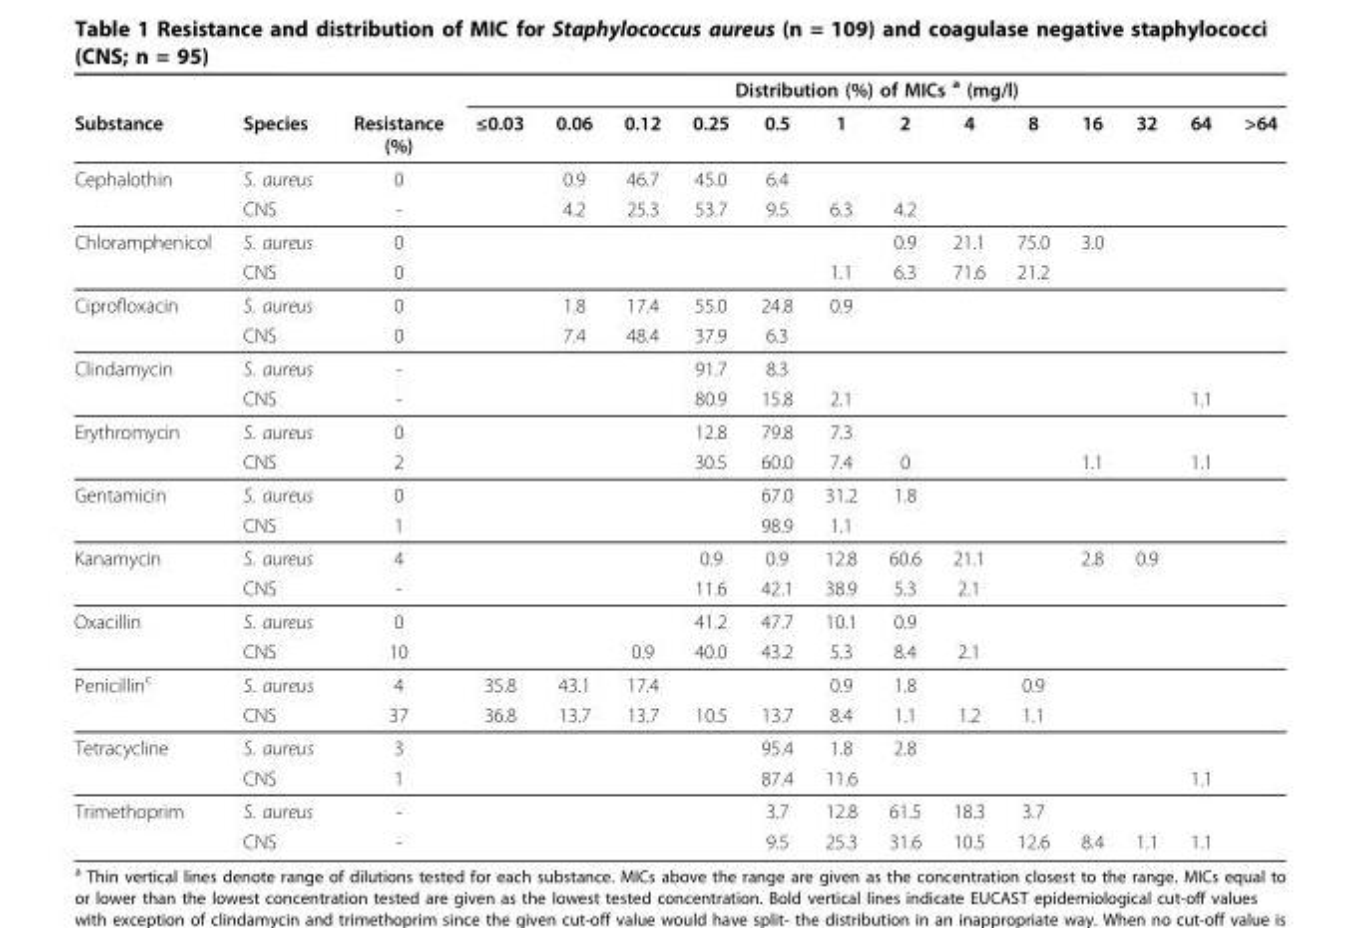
<table><thead><tr><td rowspan="2">Substance</td><td rowspan="2">Species</td><td rowspan="2">Resistance (%)</td><td colspan="13">Distribution (%) of MICs <sup>a</sup> (mg/l)</td></tr><tr><td>≤0.03</td><td>0.06</td><td>0.12</td><td>0.25</td><td>0.5</td><td>1</td><td>2</td><td>4</td><td>8</td><td>16</td><td>32</td><td>64</td><td>&gt;64</td></tr></thead><tbody><tr><td rowspan="2">Cephalothin</td><td>S. aureus</td><td>0</td><td></td><td>0.9</td><td>46.7</td><td>45.0</td><td>6.4</td><td></td><td></td><td></td><td></td><td></td><td></td><td></td><td></td></tr><tr><td>CNS</td><td>-</td><td></td><td>4.2</td><td>25.3</td><td>53.7</td><td>9.5</td><td>6.3</td><td>4.2</td><td></td><td></td><td></td><td></td><td></td><td></td></tr><tr><td rowspan="2">Chloramphenicol</td><td>S. aureus</td><td>0</td><td></td><td></td><td></td><td></td><td></td><td></td><td>0.9</td><td>21.1</td><td>75.0</td><td>3.0</td><td></td><td></td><td></td></tr><tr><td>CNS</td><td>0</td><td></td><td></td><td></td><td></td><td></td><td>1.1</td><td>6.3</td><td>71.6</td><td>21.2</td><td></td><td></td><td></td><td></td></tr><tr><td rowspan="2">Ciprofloxacin</td><td>S. aureus</td><td>0</td><td></td><td>1.8</td><td>17.4</td><td>55.0</td><td>24.8</td><td>0.9</td><td></td><td></td><td></td><td></td><td></td><td></td><td></td></tr><tr><td>CNS</td><td>0</td><td></td><td>7.4</td><td>48.4</td><td>37.9</td><td>6.3</td><td></td><td></td><td></td><td></td><td></td><td></td><td></td><td></td></tr><tr><td rowspan="2">Clindamycin</td><td>S. aureus</td><td>-</td><td></td><td></td><td></td><td>91.7</td><td>8.3</td><td></td><td></td><td></td><td></td><td></td><td></td><td></td><td></td></tr><tr><td>CNS</td><td>-</td><td></td><td></td><td></td><td>80.9</td><td>15.8</td><td>2.1</td><td></td><td></td><td></td><td></td><td></td><td>1.1</td><td></td></tr><tr><td rowspan="2">Erythromycin</td><td>S. aureus</td><td>0</td><td></td><td></td><td></td><td>12.8</td><td>79.8</td><td>7.3</td><td></td><td></td><td></td><td></td><td></td><td></td><td></td></tr><tr><td>CNS</td><td>2</td><td></td><td></td><td></td><td>30.5</td><td>60.0</td><td>7.4</td><td>0</td><td></td><td></td><td>1.1</td><td></td><td>1.1</td><td></td></tr><tr><td rowspan="2">Gentamicin</td><td>S. aureus</td><td>0</td><td></td><td></td><td></td><td></td><td>67.0</td><td>31.2</td><td>1.8</td><td></td><td></td><td></td><td></td><td></td><td></td></tr><tr><td>CNS</td><td>1</td><td></td><td></td><td></td><td></td><td>98.9</td><td>1.1</td><td></td><td></td><td></td><td></td><td></td><td></td><td></td></tr><tr><td rowspan="2">Kanamycin</td><td>S. aureus</td><td>4</td><td></td><td></td><td></td><td>0.9</td><td>0.9</td><td>12.8</td><td>60.6</td><td>21.1</td><td></td><td>2.8</td><td>0.9</td><td></td><td></td></tr><tr><td>CNS</td><td>-</td><td></td><td></td><td></td><td>11.6</td><td>42.1</td><td>38.9</td><td>5.3</td><td>2.1</td><td></td><td></td><td></td><td></td><td></td></tr><tr><td rowspan="2">Oxacillin</td><td>S. aureus</td><td>0</td><td></td><td></td><td></td><td>41.2</td><td>47.7</td><td>10.1</td><td>0.9</td><td></td><td></td><td></td><td></td><td></td><td></td></tr><tr><td>CNS</td><td>10</td><td></td><td></td><td>0.9</td><td>40.0</td><td>43.2</td><td>5.3</td><td>8.4</td><td>2.1</td><td></td><td></td><td></td><td></td><td></td></tr><tr><td rowspan="2">Penicillin<sup>c</sup></td><td>S. aureus</td><td>4</td><td>35.8</td><td>43.1</td><td>17.4</td><td></td><td></td><td>0.9</td><td>1.8</td><td></td><td>0.9</td><td></td><td></td><td></td><td></td></tr><tr><td>CNS</td><td>37</td><td>36.8</td><td>13.7</td><td>13.7</td><td>10.5</td><td>13.7</td><td>8.4</td><td>1.1</td><td>1.2</td><td>1.1</td><td></td><td></td><td></td><td></td></tr><tr><td rowspan="2">Tetracycline</td><td>S. aureus</td><td>3</td><td></td><td></td><td></td><td></td><td>95.4</td><td>1.8</td><td>2.8</td><td></td><td></td><td></td><td></td><td></td><td></td></tr><tr><td>CNS</td><td>1</td><td></td><td></td><td></td><td></td><td>87.4</td><td>11.6</td><td></td><td></td><td></td><td></td><td></td><td>1.1</td><td></td></tr><tr><td rowspan="2">Trimethoprim</td><td>S. aureus</td><td>-</td><td></td><td></td><td></td><td></td><td>3.7</td><td>12.8</td><td>61.5</td><td>18.3</td><td>3.7</td><td></td><td></td><td></td><td></td></tr><tr><td>CNS</td><td>-</td><td></td><td></td><td></td><td></td><td>9.5</td><td>25.3</td><td>31.6</td><td>10.5</td><td>12.6</td><td>8.4</td><td>1.1</td><td>1.1</td><td></td></tr></tbody></table>